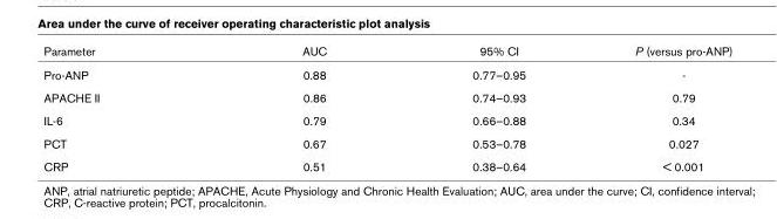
<table><thead><tr><td>Parameter</td><td>AUC</td><td>95% CI</td><td>P (versus pro-ANP)</td></tr></thead><tbody><tr><td>Pro-ANP</td><td>0.88</td><td>0.77–0.95</td><td>-</td></tr><tr><td>APACHE II</td><td>0.86</td><td>0.74–0.93</td><td>0.79</td></tr><tr><td>IL-6</td><td>0.79</td><td>0.66–0.88</td><td>0.34</td></tr><tr><td>PCT</td><td>0.67</td><td>0.53–0.78</td><td>0.027</td></tr><tr><td>CRP</td><td>0.51</td><td>0.38–0.64</td><td>&lt; 0.001</td></tr></tbody></table>